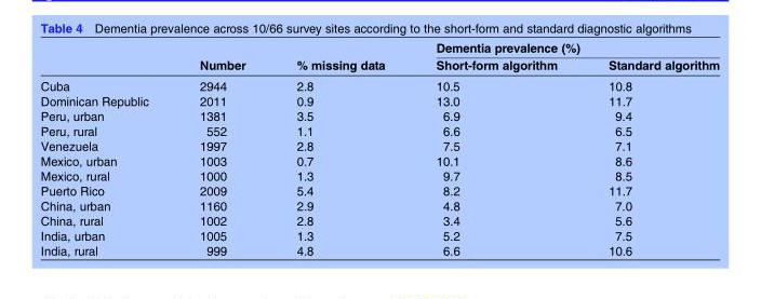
<table><thead><tr><td rowspan="2"></td><td rowspan="2">Number</td><td rowspan="2">% missing data</td><td colspan="2">Dementia prevalence (%)</td></tr><tr><td>Short-form algorithm</td><td>Standard algorithm</td></tr></thead><tbody><tr><td>Cuba</td><td>2944</td><td>2.8</td><td>10.5</td><td>10.8</td></tr><tr><td>Dominican Republic</td><td>2011</td><td>0.9</td><td>13.0</td><td>11.7</td></tr><tr><td>Peru, urban</td><td>1381</td><td>3.5</td><td>6.9</td><td>9.4</td></tr><tr><td>Peru, rural</td><td>552</td><td>1.1</td><td>6.6</td><td>6.5</td></tr><tr><td>Venezuela</td><td>1997</td><td>2.8</td><td>7.5</td><td>7.1</td></tr><tr><td>Mexico, urban</td><td>1003</td><td>0.7</td><td>10.1</td><td>8.6</td></tr><tr><td>Mexico, rural</td><td>1000</td><td>1.3</td><td>9.7</td><td>8.5</td></tr><tr><td>Puerto Rico</td><td>2009</td><td>5.4</td><td>8.2</td><td>11.7</td></tr><tr><td>China, urban</td><td>1160</td><td>2.9</td><td>4.8</td><td>7.0</td></tr><tr><td>China, rural</td><td>1002</td><td>2.8</td><td>3.4</td><td>5.6</td></tr><tr><td>India, urban</td><td>1005</td><td>1.3</td><td>5.2</td><td>7.5</td></tr><tr><td>India, rural</td><td>999</td><td>4.8</td><td>6.6</td><td>10.6</td></tr></tbody></table>